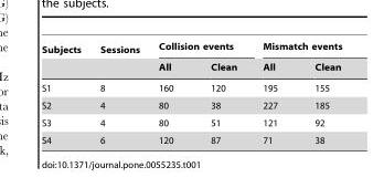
<table><thead><tr><td rowspan="2">Subjects</td><td rowspan="2">Sessions</td><td colspan="2">Collision events</td><td colspan="2">Mismatch events</td></tr><tr><td>All</td><td>Clean</td><td>All</td><td>Clean</td></tr></thead><tbody><tr><td>S1</td><td>8</td><td>160</td><td>120</td><td>195</td><td>155</td></tr><tr><td>S2</td><td>4</td><td>80</td><td>38</td><td>227</td><td>185</td></tr><tr><td>S3</td><td>4</td><td>80</td><td>51</td><td>121</td><td>92</td></tr><tr><td>S4</td><td>6</td><td>120</td><td>87</td><td>71</td><td>38</td></tr></tbody></table>